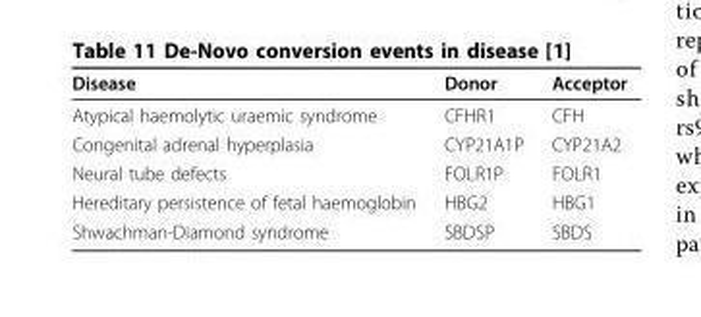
<table><thead><tr><td>Disease</td><td>Donor</td><td>Acceptor</td></tr></thead><tbody><tr><td>Atypical haemolytic uraemic syndrome</td><td>CFHR1</td><td>CFH</td></tr><tr><td>Congenital adrenal hyperplasia</td><td>CYP21A1P</td><td>CYP21A2</td></tr><tr><td>Neural tube defects</td><td>FOLR1P</td><td>FOLR1</td></tr><tr><td>Hereditary persistence of fetal haemoglobin</td><td>HBG2</td><td>HBG1</td></tr><tr><td>Shwachman-Diamond syndrome</td><td>SBDSP</td><td>SBDS</td></tr></tbody></table>